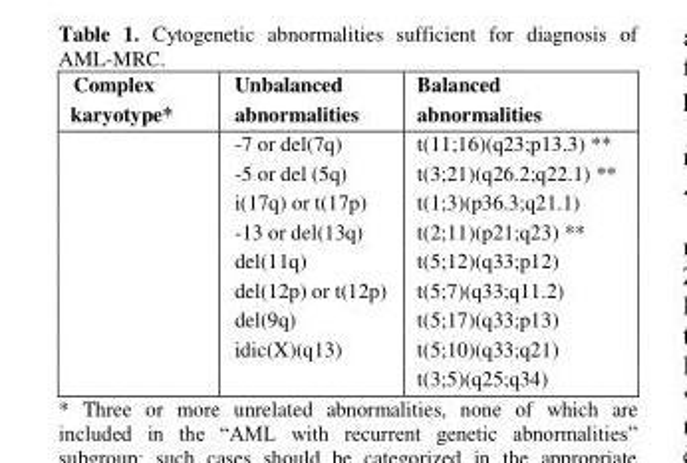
<table><thead><tr><td>Complex karyotype*</td><td>Unbalanced abnormalities</td><td>Balanced abnormalities</td></tr></thead><tbody><tr><td></td><td>-7 or del(7q)</td><td>t(11;16)(q23;p13.3) **</td></tr><tr><td></td><td>-5 or del (5q)</td><td>t(3;21)(q26.2;q22.1) **</td></tr><tr><td></td><td>i(17q) or t(17p)</td><td>t(1;3)(p36.3;q21.1)</td></tr><tr><td></td><td>-13 or del(13q)</td><td>t(2;11)(p21;q23) **</td></tr><tr><td></td><td>del(11q)</td><td>t(5;12)(q33;p12)</td></tr><tr><td></td><td>del(12p) or t(12p)</td><td>t(5;7)(q33;q11.2)</td></tr><tr><td></td><td>del(9q)</td><td>t(5;17)(q33;p13)</td></tr><tr><td></td><td>idic(X)(q13)</td><td>t(5;10)(q33;q21)</td></tr><tr><td></td><td></td><td>t(3;5)(q25;q34)</td></tr></tbody></table>